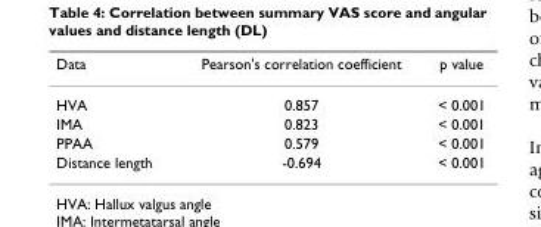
<table><thead><tr><td>Data</td><td>Pearson&#x27;s correlation coefficient</td><td>p value</td></tr></thead><tbody><tr><td>HVA</td><td>0.857</td><td>&lt; 0.001</td></tr><tr><td>IMA</td><td>0.823</td><td>&lt; 0.001</td></tr><tr><td>PPAA</td><td>0.579</td><td>&lt; 0.001</td></tr><tr><td>Distance length</td><td>-0.694</td><td>&lt; 0.001</td></tr></tbody></table>